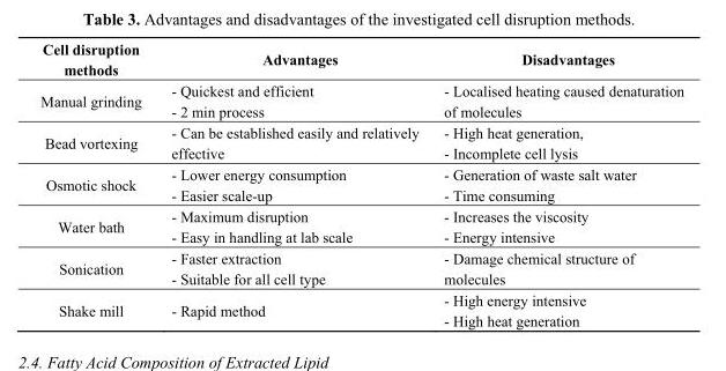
<table><thead><tr><td>Cell disruption methods</td><td>Advantages</td><td>Disadvantages</td></tr></thead><tbody><tr><td>Manual grinding</td><td>- Quickest and efficient - 2 min process</td><td>- Localised heating caused denaturation of molecules</td></tr><tr><td>Bead vortexing</td><td>- Can be established easily and relatively effective</td><td>- High heat generation, - Incomplete cell lysis</td></tr><tr><td>Osmotic shock</td><td>- Lower energy consumption - Easier scale-up</td><td>- Generation of waste salt water - Time consuming</td></tr><tr><td>Water bath</td><td>- Maximum disruption - Easy in handling at lab scale</td><td>- Increases the viscosity - Energy intensive</td></tr><tr><td>Sonication</td><td>- Faster extraction - Suitable for all cell type</td><td>- Damage chemical structure of molecules</td></tr><tr><td>Shake mill</td><td>- Rapid method</td><td>- High energy intensive - High heat generation</td></tr></tbody></table>